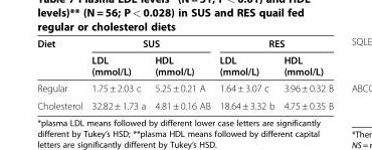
<table><thead><tr><td rowspan="2">Diet</td><td colspan="2">SUS</td><td colspan="2">RES</td></tr><tr><td>LDL (mmol/L)</td><td>HDL (mmol/L)</td><td>LDL (mmol/L)</td><td>HDL (mmol/L)</td></tr></thead><tbody><tr><td>Regular</td><td>1.75 ± 2.03 c</td><td>5.25 ± 0.21 A</td><td>1.64 ± 3.07 c</td><td>3.96 ± 0.32 B</td></tr><tr><td>Cholesterol</td><td>32.82 ± 1.73 a</td><td>4.81 ± 0.16 AB</td><td>18.64 ± 3.32 b</td><td>4.75 ± 0.35 B</td></tr></tbody></table>